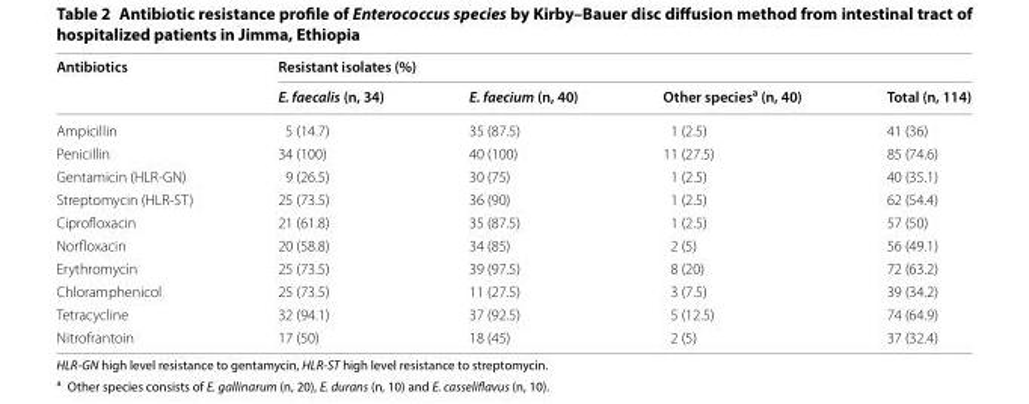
<table><thead><tr><td rowspan="2">Antibiotics</td><td colspan="4">Resistant isolates (%)</td></tr><tr><td>E. faecalis (n, 34)</td><td>E. faecium (n, 40)</td><td>Other species<sup>a</sup> (n, 40)</td><td>Total (n, 114)</td></tr></thead><tbody><tr><td>Ampicillin</td><td>5 (14.7)</td><td>35 (87.5)</td><td>1 (2.5)</td><td>41 (36)</td></tr><tr><td>Penicillin</td><td>34 (100)</td><td>40 (100)</td><td>11 (27.5)</td><td>85 (74.6)</td></tr><tr><td>Gentamicin (HLR-GN)</td><td>9 (26.5)</td><td>30 (75)</td><td>1 (2.5)</td><td>40 (35.1)</td></tr><tr><td>Streptomycin (HLR-ST)</td><td>25 (73.5)</td><td>36 (90)</td><td>1 (2.5)</td><td>62 (54.4)</td></tr><tr><td>Ciprofloxacin</td><td>21 (61.8)</td><td>35 (87.5)</td><td>1 (2.5)</td><td>57 (50)</td></tr><tr><td>Norfloxacin</td><td>20 (58.8)</td><td>34 (85)</td><td>2 (5)</td><td>56 (49.1)</td></tr><tr><td>Erythromycin</td><td>25 (73.5)</td><td>39 (97.5)</td><td>8 (20)</td><td>72 (63.2)</td></tr><tr><td>Chloramphenicol</td><td>25 (73.5)</td><td>11 (27.5)</td><td>3 (7.5)</td><td>39 (34.2)</td></tr><tr><td>Tetracycline</td><td>32 (94.1)</td><td>37 (92.5)</td><td>5 (12.5)</td><td>74 (64.9)</td></tr><tr><td>Nitrofrantoin</td><td>17 (50)</td><td>18 (45)</td><td>2 (5)</td><td>37 (32.4)</td></tr></tbody></table>